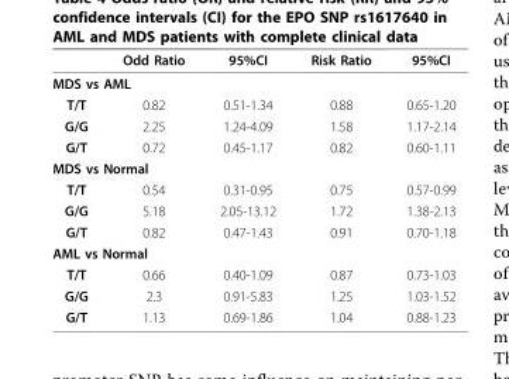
<table><thead><tr><td></td><td>Odd Ratio</td><td>95%CI</td><td>Risk Ratio</td><td>95%CI</td></tr></thead><tbody><tr><td colspan="5">MDS vs AML</td></tr><tr><td>T/T</td><td>0.82</td><td>0.51-1.34</td><td>0.88</td><td>0.65-1.20</td></tr><tr><td>G/G</td><td>2.25</td><td>1.24-4.09</td><td>1.58</td><td>1.17-2.14</td></tr><tr><td>G/T</td><td>0.72</td><td>0.45-1.17</td><td>0.82</td><td>0.60-1.11</td></tr><tr><td colspan="5">MDS vs Normal</td></tr><tr><td>T/T</td><td>0.54</td><td>0.31-0.95</td><td>0.75</td><td>0.57-0.99</td></tr><tr><td>G/G</td><td>5.18</td><td>2.05-13.12</td><td>1.72</td><td>1.38-2.13</td></tr><tr><td>G/T</td><td>0.82</td><td>0.47-1.43</td><td>0.91</td><td>0.70-1.18</td></tr><tr><td colspan="5">AML vs Normal</td></tr><tr><td>T/T</td><td>0.66</td><td>0.40-1.09</td><td>0.87</td><td>0.73-1.03</td></tr><tr><td>G/G</td><td>2.3</td><td>0.91-5.83</td><td>1.25</td><td>1.03-1.52</td></tr><tr><td>G/T</td><td>1.13</td><td>0.69-1.86</td><td>1.04</td><td>0.88-1.23</td></tr></tbody></table>